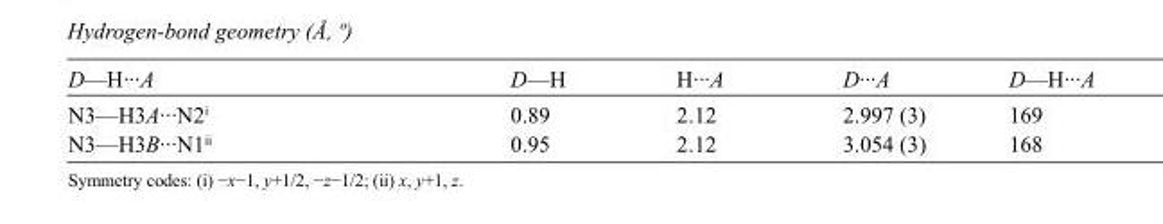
<table><tbody><tr><td>D—H···A</td><td>D—H</td><td>H···A</td><td>D···A</td><td>D—H···A</td></tr><tr><td>N3—H3A···N2<sup>i</sup></td><td>0.89</td><td>2.12</td><td>2.997 (3)</td><td>169</td></tr><tr><td>N3—H3B···N1<sup>ii</sup></td><td>0.95</td><td>2.12</td><td>3.054 (3)</td><td>168</td></tr></tbody></table>